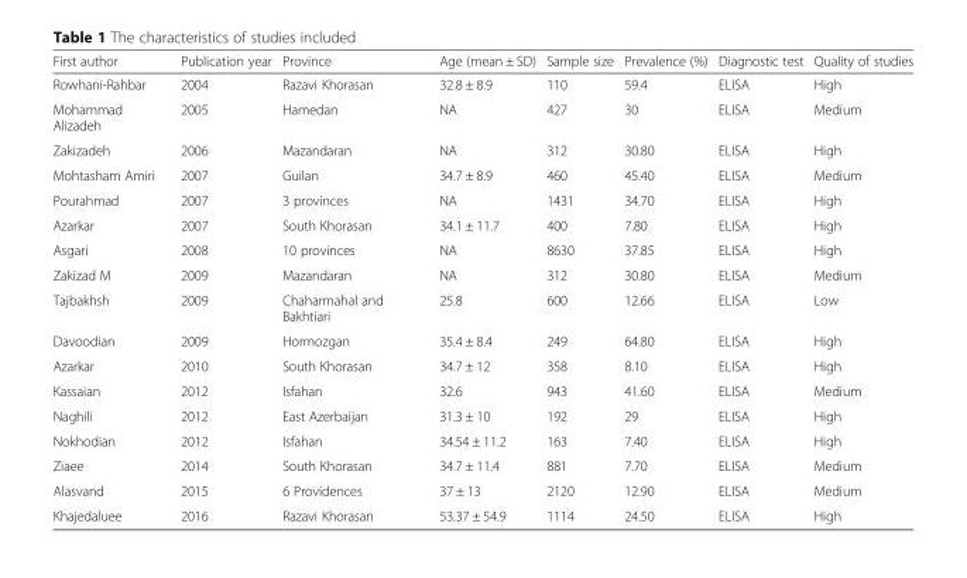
<table><thead><tr><td>First author</td><td>Publication year</td><td>Province</td><td>Age (mean ± SD)</td><td>Sample size</td><td>Prevalence (%)</td><td>Diagnostic test</td><td>Quality of studies</td></tr></thead><tbody><tr><td>Rowhani-Rahbar</td><td>2004</td><td>Razavi Khorasan</td><td>32.8 ± 8.9</td><td>110</td><td>59.4</td><td>ELISA</td><td>High</td></tr><tr><td>Mohammad Alizadeh</td><td>2005</td><td>Hamedan</td><td>NA</td><td>427</td><td>30</td><td>ELISA</td><td>Medium</td></tr><tr><td>Zakizadeh</td><td>2006</td><td>Mazandaran</td><td>NA</td><td>312</td><td>30.80</td><td>ELISA</td><td>High</td></tr><tr><td>Mohtasham Amiri</td><td>2007</td><td>Guilan</td><td>34.7 ± 8.9</td><td>460</td><td>45.40</td><td>ELISA</td><td>Medium</td></tr><tr><td>Pourahmad</td><td>2007</td><td>3 provinces</td><td>NA</td><td>1431</td><td>34.70</td><td>ELISA</td><td>High</td></tr><tr><td>Azarkar</td><td>2007</td><td>South Khorasan</td><td>34.1 ± 11.7</td><td>400</td><td>7.80</td><td>ELISA</td><td>High</td></tr><tr><td>Asgari</td><td>2008</td><td>10 provinces</td><td>NA</td><td>8630</td><td>37.85</td><td>ELISA</td><td>High</td></tr><tr><td>Zakizad M</td><td>2009</td><td>Mazandaran</td><td>NA</td><td>312</td><td>30.80</td><td>ELISA</td><td>Medium</td></tr><tr><td>Tajbakhsh</td><td>2009</td><td>Chaharmahal and Bakhtiari</td><td>25.8</td><td>600</td><td>12.66</td><td>ELISA</td><td>Low</td></tr><tr><td>Davoodian</td><td>2009</td><td>Hormozgan</td><td>35.4 ± 8.4</td><td>249</td><td>64.80</td><td>ELISA</td><td>High</td></tr><tr><td>Azarkar</td><td>2010</td><td>South Khorasan</td><td>34.7 ± 12</td><td>358</td><td>8.10</td><td>ELISA</td><td>High</td></tr><tr><td>Kassaian</td><td>2012</td><td>Isfahan</td><td>32.6</td><td>943</td><td>41.60</td><td>ELISA</td><td>Medium</td></tr><tr><td>Naghili</td><td>2012</td><td>East Azerbaijan</td><td>31.3 ± 10</td><td>192</td><td>29</td><td>ELISA</td><td>High</td></tr><tr><td>Nokhodian</td><td>2012</td><td>Isfahan</td><td>34.54 ± 11.2</td><td>163</td><td>7.40</td><td>ELISA</td><td>High</td></tr><tr><td>Ziaee</td><td>2014</td><td>South Khorasan</td><td>34.7 ± 11.4</td><td>881</td><td>7.70</td><td>ELISA</td><td>Medium</td></tr><tr><td>Alasvand</td><td>2015</td><td>6 Providences</td><td>37 ± 13</td><td>2120</td><td>12.90</td><td>ELISA</td><td>Medium</td></tr><tr><td>Khajedaluee</td><td>2016</td><td>Razavi Khorasan</td><td>53.37 ± 54.9</td><td>1114</td><td>24.50</td><td>ELISA</td><td>High</td></tr></tbody></table>